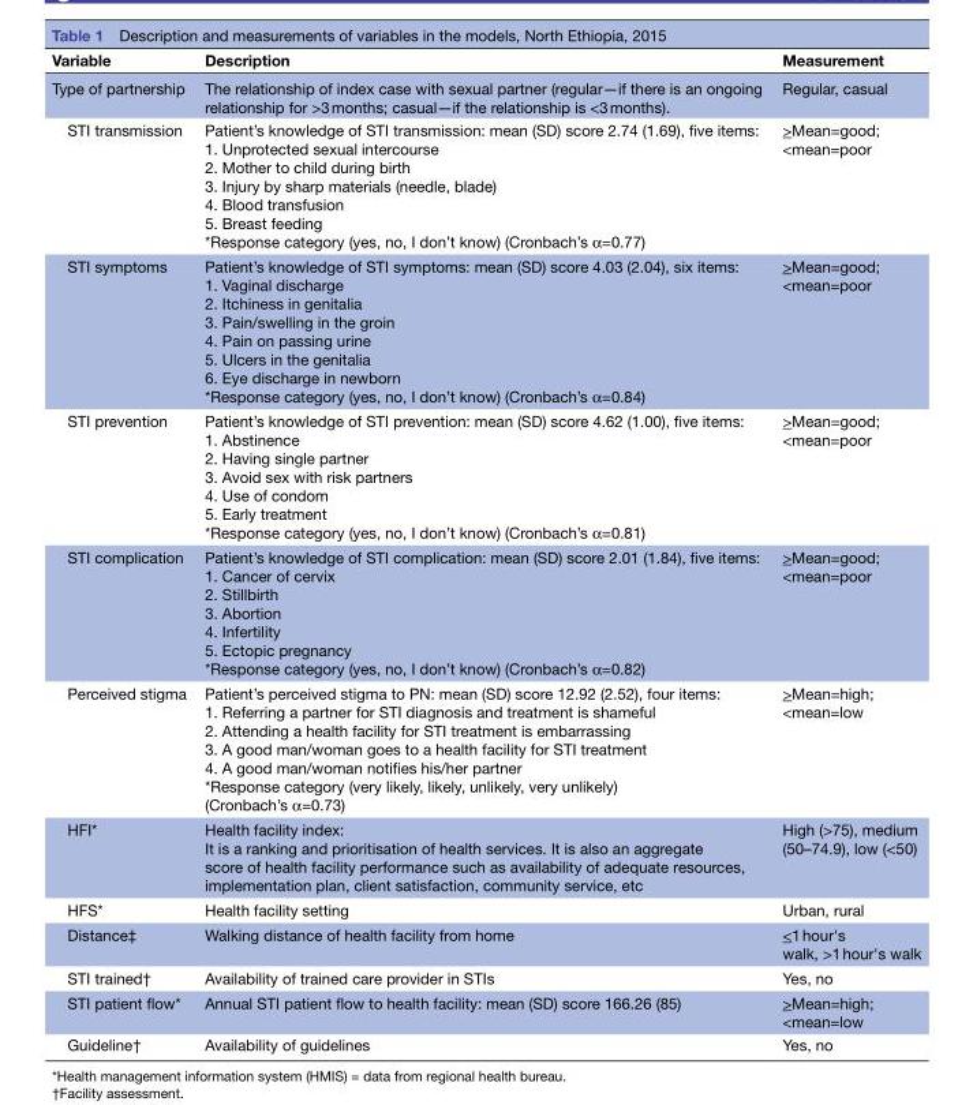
<table><thead><tr><td>Variable</td><td>Description</td><td>Measurement</td></tr></thead><tbody><tr><td>Type of partnership</td><td>The relationship of index case with sexual partner (regular—if there is an ongoing relationship for &gt;3 months; casual—if the relationship is &lt;3 months).</td><td>Regular, casual</td></tr><tr><td>STI transmission</td><td>Patient’s knowledge of STI transmission: mean (SD) score 2.74 (1.69), five items: 1. Unprotected sexual intercourse 2. Mother to child during birth 3. Injury by sharp materials (needle, blade) 4. Blood transfusion 5. Breast feeding *Response category (yes, no, I don’t know) (Cronbach’s α=0.77)</td><td>&gt;Mean=good; &lt;mean=poor</td></tr><tr><td>STI symptoms</td><td>Patient’s knowledge of STI symptoms: mean (SD) score 4.03 (2.04), six items: 1. Vaginal discharge 2. Itchiness in genitalia 3. Pain/swelling in the groin 4. Pain on passing urine 5. Ulcers in the genitalia 6. Eye discharge in newborn *Response category (yes, no, I don’t know) (Cronbach’s α=0.84)</td><td>&gt;Mean=good; &lt;mean=poor</td></tr><tr><td>STI prevention</td><td>Patient’s knowledge of STI prevention: mean (SD) score 4.62 (1.00), five items: 1. Abstinence 2. Having single partner 3. Avoid sex with risk partners 4. Use of condom 5. Early treatment *Response category (yes, no, I don’t know) (Cronbach’s α=0.81)</td><td>&gt;Mean=good; &lt;mean=poor</td></tr><tr><td>STI complication</td><td>Patient’s knowledge of STI complication: mean (SD) score 2.01 (1.84), five items: 1. Cancer of cervix 2. Stillbirth 3. Abortion 4. Infertility 5. Ectopic pregnancy *Response category (yes, no, I don’t know) (Cronbach’s α=0.82)</td><td>&gt;Mean=good; &lt;mean=poor</td></tr><tr><td>Perceived stigma</td><td>Patient’s perceived stigma to PN: mean (SD) score 12.92 (2.52), four items: 1. Referring a partner for STI diagnosis and treatment is shameful 2. Attending a health facility for STI treatment is embarrassing 3. A good man/woman goes to a health facility for STI treatment 4. A good man/woman notifies his/her partner *Response category (very likely, likely, unlikely, very unlikely) (Cronbach’s α=0.73)</td><td>&gt;Mean=high; &lt;mean=low</td></tr><tr><td>HFI*</td><td>Health facility index: It is a ranking and prioritisation of health services. It is also an aggregate score of health facility performance such as availability of adequate resources, implementation plan, client satisfaction, community service, etc</td><td>High (&gt;75), medium (50–74.9), low (&lt;50)</td></tr><tr><td>HFS*</td><td>Health facility setting</td><td>Urban, rural</td></tr><tr><td>Distance‡</td><td>Walking distance of health facility from home</td><td>&lt;1 hour&#x27;s walk, &gt;1 hour&#x27;s walk</td></tr><tr><td>STI trained†</td><td>Availability of trained care provider in STIs</td><td>Yes, no</td></tr><tr><td>STI patient flow*</td><td>Annual STI patient flow to health facility: mean (SD) score 166.26 (85)</td><td>&gt;Mean=high; &lt;mean=low</td></tr><tr><td>Guideline†</td><td>Availability of guidelines</td><td>Yes, no</td></tr></tbody></table>